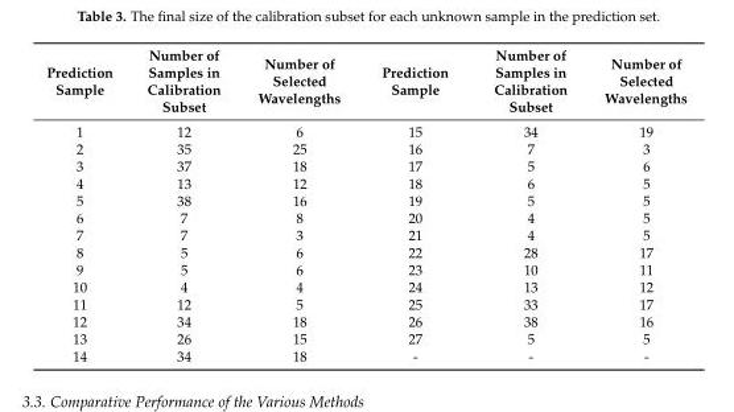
<table><thead><tr><td>Prediction Sample</td><td>Number of Samples in Calibration Subset</td><td>Number of Selected Wavelengths</td><td>Prediction Sample</td><td>Number of Samples in Calibration Subset</td><td>Number of Selected Wavelengths</td></tr></thead><tbody><tr><td>1</td><td>12</td><td>6</td><td>15</td><td>34</td><td>19</td></tr><tr><td>2</td><td>35</td><td>25</td><td>16</td><td>7</td><td>3</td></tr><tr><td>3</td><td>37</td><td>18</td><td>17</td><td>5</td><td>6</td></tr><tr><td>4</td><td>13</td><td>12</td><td>18</td><td>6</td><td>5</td></tr><tr><td>5</td><td>38</td><td>16</td><td>19</td><td>5</td><td>5</td></tr><tr><td>6</td><td>7</td><td>8</td><td>20</td><td>4</td><td>5</td></tr><tr><td>7</td><td>7</td><td>3</td><td>21</td><td>4</td><td>5</td></tr><tr><td>8</td><td>5</td><td>6</td><td>22</td><td>28</td><td>17</td></tr><tr><td>9</td><td>5</td><td>6</td><td>23</td><td>10</td><td>11</td></tr><tr><td>10</td><td>4</td><td>4</td><td>24</td><td>13</td><td>12</td></tr><tr><td>11</td><td>12</td><td>5</td><td>25</td><td>33</td><td>17</td></tr><tr><td>12</td><td>34</td><td>18</td><td>26</td><td>38</td><td>16</td></tr><tr><td>13</td><td>26</td><td>15</td><td>27</td><td>5</td><td>5</td></tr><tr><td>14</td><td>34</td><td>18</td><td>-</td><td>-</td><td>-</td></tr></tbody></table>